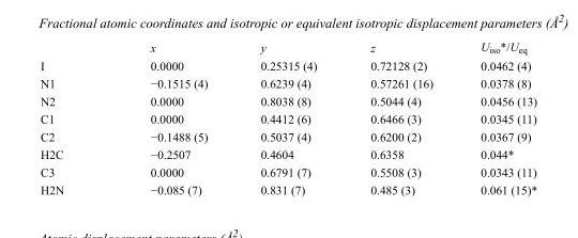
<table><thead><tr><td></td><td>x</td><td>y</td><td>z</td><td>U<sub>iso</sub>*/U<sub>eq</sub></td></tr></thead><tbody><tr><td>I</td><td>0.0000</td><td>0.25315 (4)</td><td>0.72128 (2)</td><td>0.0462 (4)</td></tr><tr><td>N1</td><td>−0.1515 (4)</td><td>0.6239 (4)</td><td>0.57261 (16)</td><td>0.0378 (8)</td></tr><tr><td>N2</td><td>0.0000</td><td>0.8038 (8)</td><td>0.5044 (4)</td><td>0.0456 (13)</td></tr><tr><td>C1</td><td>0.0000</td><td>0.4412 (6)</td><td>0.6466 (3)</td><td>0.0345 (11)</td></tr><tr><td>C2</td><td>−0.1488 (5)</td><td>0.5037 (4)</td><td>0.6200 (2)</td><td>0.0367 (9)</td></tr><tr><td>H2C</td><td>−0.2507</td><td>0.4604</td><td>0.6358</td><td>0.044*</td></tr><tr><td>C3</td><td>0.0000</td><td>0.6791 (7)</td><td>0.5508 (3)</td><td>0.0343 (11)</td></tr><tr><td>H2N</td><td>−0.085 (7)</td><td>0.831 (7)</td><td>0.485 (3)</td><td>0.061 (15)*</td></tr></tbody></table>